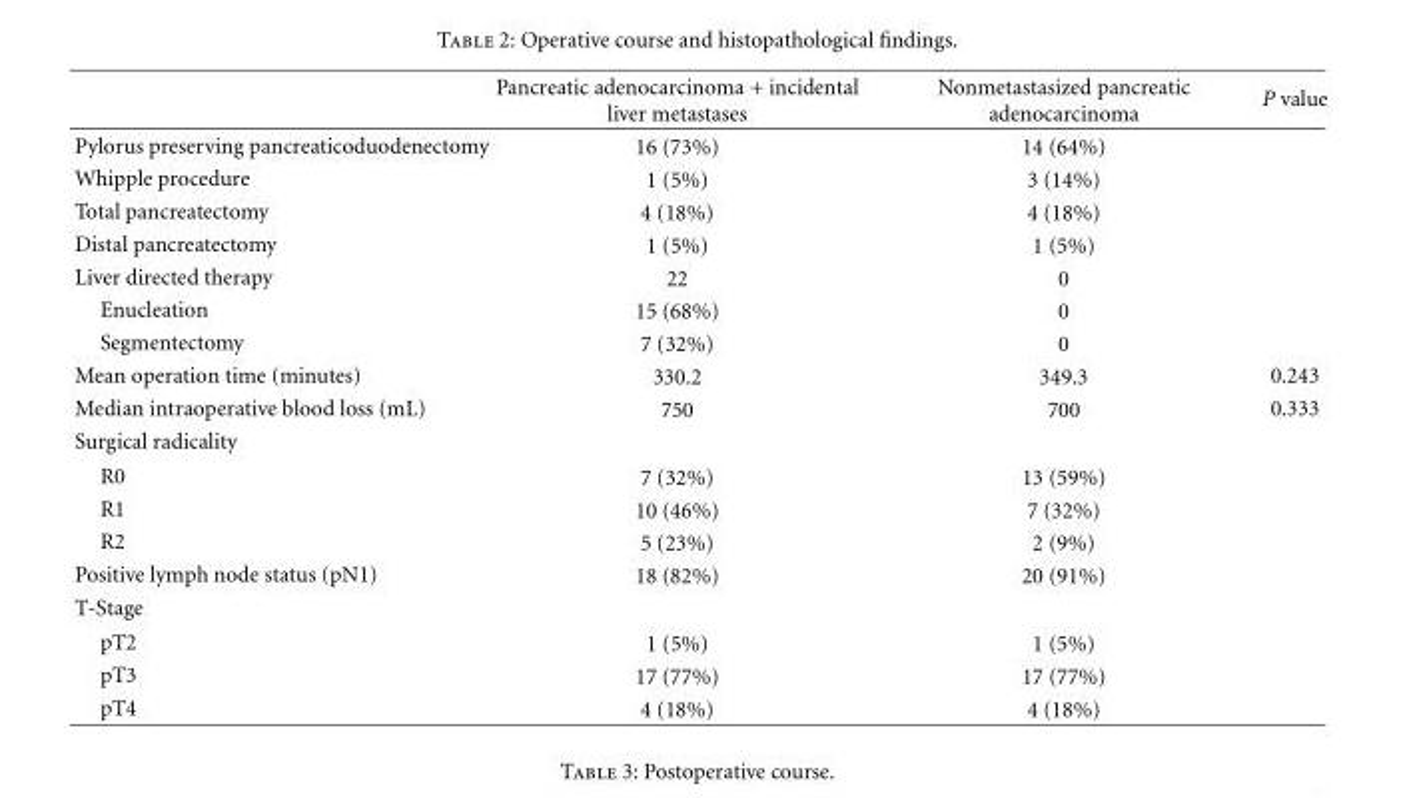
<table><thead><tr><td></td><td>Pancreatic adenocarcinoma + incidental liver metastases</td><td>Nonmetastasized pancreatic adenocarcinoma</td><td>P value</td></tr></thead><tbody><tr><td>Pylorus preserving pancreaticoduodenectomy</td><td>16 (73%)</td><td>14 (64%)</td><td></td></tr><tr><td>Whipple procedure</td><td>1 (5%)</td><td>3 (14%)</td><td></td></tr><tr><td>Total pancreatectomy</td><td>4 (18%)</td><td>4 (18%)</td><td></td></tr><tr><td>Distal pancreatectomy</td><td>1 (5%)</td><td>1 (5%)</td><td></td></tr><tr><td>Liver directed therapy</td><td>22</td><td>0</td><td></td></tr><tr><td>Enucleation</td><td>15 (68%)</td><td>0</td><td></td></tr><tr><td>Segmentectomy</td><td>7 (32%)</td><td>0</td><td></td></tr><tr><td>Mean operation time (minutes)</td><td>330.2</td><td>349.3</td><td>0.243</td></tr><tr><td>Median intraoperative blood loss (mL)</td><td>750</td><td>700</td><td>0.333</td></tr><tr><td colspan="4">Surgical radicality</td></tr><tr><td>R0</td><td>7 (32%)</td><td>13 (59%)</td><td></td></tr><tr><td>R1</td><td>10 (46%)</td><td>7 (32%)</td><td></td></tr><tr><td>R2</td><td>5 (23%)</td><td>2 (9%)</td><td></td></tr><tr><td>Positive lymph node status (pN1)</td><td>18 (82%)</td><td>20 (91%)</td><td></td></tr><tr><td colspan="4">T-Stage</td></tr><tr><td>pT2</td><td>1 (5%)</td><td>1 (5%)</td><td></td></tr><tr><td>pT3</td><td>17 (77%)</td><td>17 (77%)</td><td></td></tr><tr><td>pT4</td><td>4 (18%)</td><td>4 (18%)</td><td></td></tr></tbody></table>